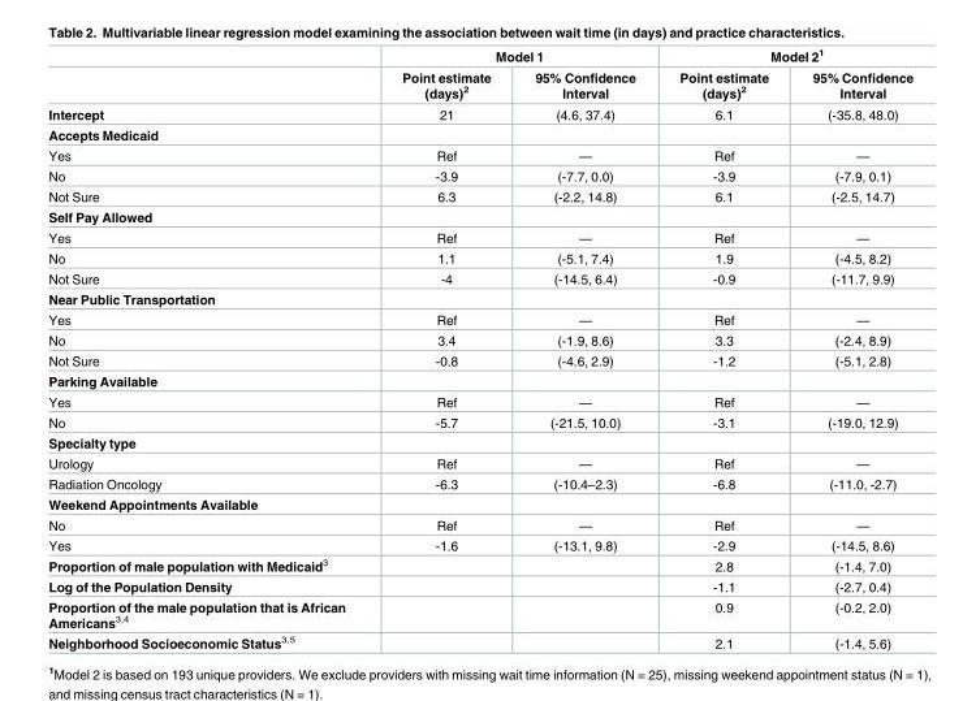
<table><thead><tr><td rowspan="2"></td><td colspan="2">Model 1</td><td colspan="2">Model 2<sup>1</sup></td></tr><tr><td>Point estimate (days)<sup>2</sup></td><td>95% Confidence Interval</td><td>Point estimate (days)<sup>2</sup></td><td>95% Confidence Interval</td></tr></thead><tbody><tr><td>Intercept</td><td>21</td><td>(4.6, 37.4)</td><td>6.1</td><td>(-35.8, 48.0)</td></tr><tr><td colspan="5">Accepts Medicaid</td></tr><tr><td>Yes</td><td>Ref</td><td>—</td><td>Ref</td><td>—</td></tr><tr><td>No</td><td>-3.9</td><td>(-7.7, 0.0)</td><td>-3.9</td><td>(-7.9, 0.1)</td></tr><tr><td>Not Sure</td><td>6.3</td><td>(-2.2, 14.8)</td><td>6.1</td><td>(-2.5, 14.7)</td></tr><tr><td colspan="5">Self Pay Allowed</td></tr><tr><td>Yes</td><td>Ref</td><td>—</td><td>Ref</td><td>—</td></tr><tr><td>No</td><td>1.1</td><td>(-5.1, 7.4)</td><td>1.9</td><td>(-4.5, 8.2)</td></tr><tr><td>Not Sure</td><td>-4</td><td>(-14.5, 6.4)</td><td>-0.9</td><td>(-11.7, 9.9)</td></tr><tr><td colspan="5">Near Public Transportation</td></tr><tr><td>Yes</td><td>Ref</td><td>—</td><td>Ref</td><td>—</td></tr><tr><td>No</td><td>3.4</td><td>(-1.9, 8.6)</td><td>3.3</td><td>(-2.4, 8.9)</td></tr><tr><td>Not Sure</td><td>-0.8</td><td>(-4.6, 2.9)</td><td>-1.2</td><td>(-5.1, 2.8)</td></tr><tr><td colspan="5">Parking Available</td></tr><tr><td>Yes</td><td>Ref</td><td>—</td><td>Ref</td><td>—</td></tr><tr><td>No</td><td>-5.7</td><td>(-21.5, 10.0)</td><td>-3.1</td><td>(-19.0, 12.9)</td></tr><tr><td colspan="5">Specialty type</td></tr><tr><td>Urology</td><td>Ref</td><td>—</td><td>Ref</td><td>—</td></tr><tr><td>Radiation Oncology</td><td>-6.3</td><td>(-10.4–2.3)</td><td>-6.8</td><td>(-11.0, -2.7)</td></tr><tr><td colspan="5">Weekend Appointments Available</td></tr><tr><td>No</td><td>Ref</td><td>—</td><td>Ref</td><td>—</td></tr><tr><td>Yes</td><td>-1.6</td><td>(-13.1, 9.8)</td><td>-2.9</td><td>(-14.5, 8.6)</td></tr><tr><td>Proportion of male population with Medicaid<sup>3</sup></td><td></td><td></td><td>2.8</td><td>(-1.4, 7.0)</td></tr><tr><td>Log of the Population Density</td><td></td><td></td><td>-1.1</td><td>(-2.7, 0.4)</td></tr><tr><td>Proportion of the male population that is African Americans<sup>3,4</sup></td><td></td><td></td><td>0.9</td><td>(-0.2, 2.0)</td></tr><tr><td>Neighborhood Socioeconomic Status<sup>3,5</sup></td><td></td><td></td><td>2.1</td><td>(-1.4, 5.6)</td></tr></tbody></table>